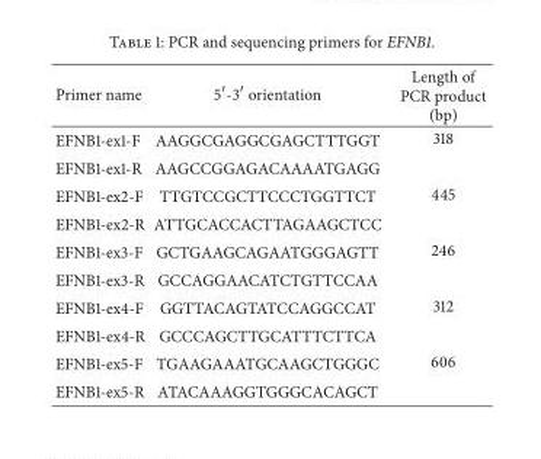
<table><thead><tr><td>Primer name</td><td>5′-3′ orientation</td><td>Length of PCR product (bp)</td></tr></thead><tbody><tr><td>EFNB1-ex1-F</td><td>AAGGCGAGGCGAGCTTTGGT</td><td>318</td></tr><tr><td>EFNB1-ex1-R</td><td>AAGCCGGAGACAAAATGAGG</td><td></td></tr><tr><td>EFNB1-ex2-F</td><td>TTGTCCGCTTCCCTGGTTCT</td><td>445</td></tr><tr><td>EFNB1-ex2-R</td><td>ATTGCACCACTTAGAAGCTCC</td><td></td></tr><tr><td>EFNB1-ex3-F</td><td>GCTGAAGCAGAATGGGAGTT</td><td>246</td></tr><tr><td>EFNB1-ex3-R</td><td>GCCAGGAACATCTGTTCCAA</td><td></td></tr><tr><td>EFNB1-ex4-F</td><td>GGTTACAGTATCCAGGCCAT</td><td>312</td></tr><tr><td>EFNB1-ex4-R</td><td>GCCCAGCTTGCATTTCTTCA</td><td></td></tr><tr><td>EFNB1-ex5-F</td><td>TGAAGAAATGCAAGCTGGGC</td><td>606</td></tr><tr><td>EFNB1-ex5-R</td><td>ATACAAAGGTGGGCACAGCT</td><td></td></tr></tbody></table>